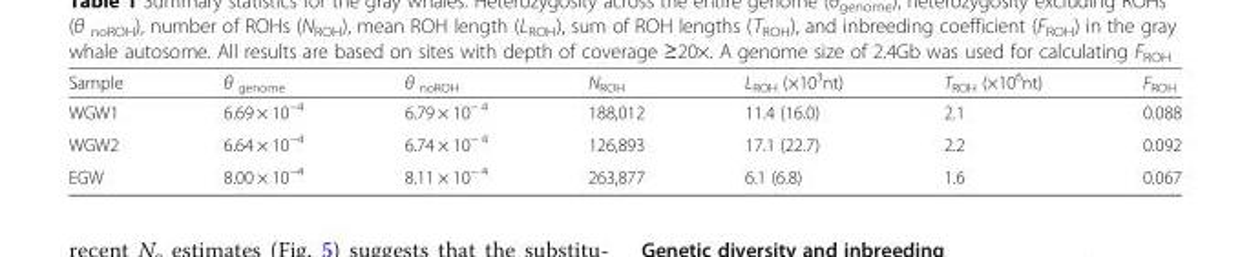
<table><thead><tr><td>Sample</td><td>θ <sub>genome</sub></td><td>θ <sub>noROH</sub></td><td>N<sub>ROH</sub></td><td>L<sub>ROH</sub> (×10<sup>3</sup>nt)</td><td>T<sub>ROH</sub> (×10<sup>6</sup>nt)</td><td>F<sub>ROH</sub></td></tr></thead><tbody><tr><td>WGW1</td><td>6.69 × 10<sup>−4</sup></td><td>6.79 × 10<sup>− 4</sup></td><td>188,012</td><td>11.4 (16.0)</td><td>2.1</td><td>0.088</td></tr><tr><td>WGW2</td><td>6.64 × 10<sup>−4</sup></td><td>6.74 × 10<sup>− 4</sup></td><td>126,893</td><td>17.1 (22.7)</td><td>2.2</td><td>0.092</td></tr><tr><td>EGW</td><td>8.00 × 10<sup>−4</sup></td><td>8.11 × 10<sup>− 4</sup></td><td>263,877</td><td>6.1 (6.8)</td><td>1.6</td><td>0.067</td></tr></tbody></table>